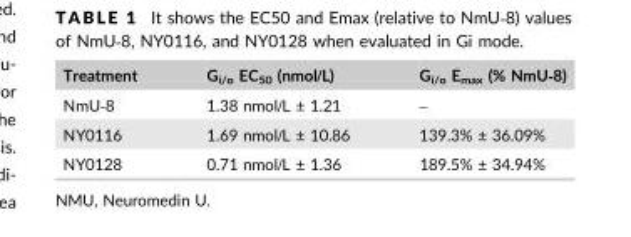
<table><thead><tr><td>Treatment</td><td>G<sub>i/o</sub> EC<sub>50</sub> (nmol/L)</td><td>G<sub>i/o</sub> E<sub>max</sub> (% NmU‐8)</td></tr></thead><tbody><tr><td>NmU‐8</td><td>1.38 nmol/L ± 1.21</td><td>–</td></tr><tr><td>NY0116</td><td>1.69 nmol/L ± 10.86</td><td>139.3% ± 36.09%</td></tr><tr><td>NY0128</td><td>0.71 nmol/L ± 1.36</td><td>189.5% ± 34.94%</td></tr></tbody></table>